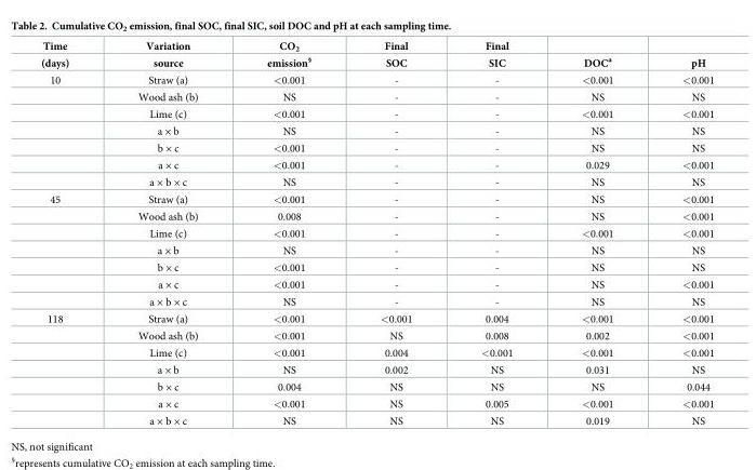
<table><thead><tr><td rowspan="2">Time (days)</td><td rowspan="2">Variation source</td><td rowspan="2">CO<sub>2</sub> emission<sup>§</sup></td><td rowspan="2">Final SOC</td><td rowspan="2">Final SIC</td><td rowspan="2">DOC<sup>a</sup></td><td rowspan="2">pH</td></tr><tr></tr></thead><tbody><tr><td rowspan="7">10</td><td>Straw (a)</td><td>&lt;0.001</td><td>-</td><td>-</td><td>&lt;0.001</td><td>&lt;0.001</td></tr><tr><td>Wood ash (b)</td><td>NS</td><td>-</td><td>-</td><td>NS</td><td>NS</td></tr><tr><td>Lime (c)</td><td>&lt;0.001</td><td>-</td><td>-</td><td>&lt;0.001</td><td>&lt;0.001</td></tr><tr><td>a × b</td><td>NS</td><td>-</td><td>-</td><td>NS</td><td>NS</td></tr><tr><td>b × c</td><td>&lt;0.001</td><td>-</td><td>-</td><td>NS</td><td>NS</td></tr><tr><td>a × c</td><td>&lt;0.001</td><td>-</td><td>-</td><td>0.029</td><td>&lt;0.001</td></tr><tr><td>a × b × c</td><td>NS</td><td>-</td><td>-</td><td>NS</td><td>NS</td></tr><tr><td rowspan="7">45</td><td>Straw (a)</td><td>&lt;0.001</td><td>-</td><td>-</td><td>NS</td><td>&lt;0.001</td></tr><tr><td>Wood ash (b)</td><td>0.008</td><td>-</td><td>-</td><td>NS</td><td>&lt;0.001</td></tr><tr><td>Lime (c)</td><td>&lt;0.001</td><td>-</td><td>-</td><td>&lt;0.001</td><td>&lt;0.001</td></tr><tr><td>a × b</td><td>NS</td><td>-</td><td>-</td><td>NS</td><td>NS</td></tr><tr><td>b × c</td><td>&lt;0.001</td><td>-</td><td>-</td><td>NS</td><td>NS</td></tr><tr><td>a × c</td><td>&lt;0.001</td><td>-</td><td>-</td><td>NS</td><td>&lt;0.001</td></tr><tr><td>a × b × c</td><td>NS</td><td>-</td><td>-</td><td>NS</td><td>NS</td></tr><tr><td rowspan="7">118</td><td>Straw (a)</td><td>&lt;0.001</td><td>&lt;0.001</td><td>0.004</td><td>&lt;0.001</td><td>&lt;0.001</td></tr><tr><td>Wood ash (b)</td><td>&lt;0.001</td><td>NS</td><td>0.008</td><td>0.002</td><td>&lt;0.001</td></tr><tr><td>Lime (c)</td><td>&lt;0.001</td><td>0.004</td><td>&lt;0.001</td><td>&lt;0.001</td><td>&lt;0.001</td></tr><tr><td>a × b</td><td>NS</td><td>0.002</td><td>NS</td><td>0.031</td><td>NS</td></tr><tr><td>b × c</td><td>0.004</td><td>NS</td><td>NS</td><td>NS</td><td>0.044</td></tr><tr><td>a × c</td><td>&lt;0.001</td><td>NS</td><td>0.005</td><td>&lt;0.001</td><td>&lt;0.001</td></tr><tr><td>a × b × c</td><td>NS</td><td>NS</td><td>NS</td><td>0.019</td><td>NS</td></tr></tbody></table>